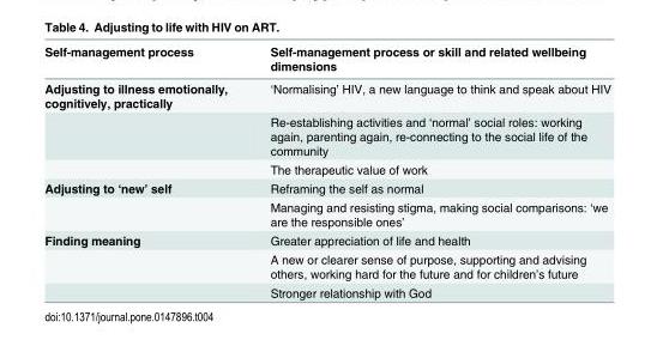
<table><thead><tr><td>Self-management process</td><td>Self-management process or skill and related wellbeing dimensions</td></tr></thead><tbody><tr><td rowspan="3">Adjusting to illness emotionally, cognitively, practically</td><td>‘Normalising’ HIV, a new language to think and speak about HIV</td></tr><tr><td>Re-establishing activities and ‘normal’ social roles: working again, parenting again, re-connecting to the social life of the community</td></tr><tr><td>The therapeutic value of work</td></tr><tr><td rowspan="2">Adjusting to ‘new’ self</td><td>Reframing the self as normal</td></tr><tr><td>Managing and resisting stigma, making social comparisons: ‘we are the responsible ones’</td></tr><tr><td rowspan="3">Finding meaning</td><td>Greater appreciation of life and health</td></tr><tr><td>A new or clearer sense of purpose, supporting and advising others, working hard for the future and for children’s future</td></tr><tr><td>Stronger relationship with God</td></tr></tbody></table>